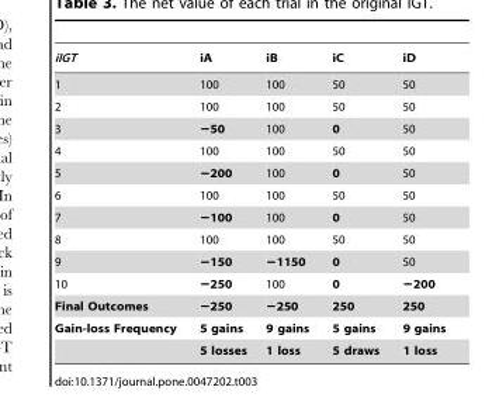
<table><thead><tr><td>iIGT</td><td>iA</td><td>iB</td><td>iC</td><td>iD</td></tr></thead><tbody><tr><td>1</td><td>100</td><td>100</td><td>50</td><td>50</td></tr><tr><td>2</td><td>100</td><td>100</td><td>50</td><td>50</td></tr><tr><td>3</td><td>−50</td><td>100</td><td>0</td><td>50</td></tr><tr><td>4</td><td>100</td><td>100</td><td>50</td><td>50</td></tr><tr><td>5</td><td>−200</td><td>100</td><td>0</td><td>50</td></tr><tr><td>6</td><td>100</td><td>100</td><td>50</td><td>50</td></tr><tr><td>7</td><td>−100</td><td>100</td><td>0</td><td>50</td></tr><tr><td>8</td><td>100</td><td>100</td><td>50</td><td>50</td></tr><tr><td>9</td><td>−150</td><td>−1150</td><td>0</td><td>50</td></tr><tr><td>10</td><td>−250</td><td>100</td><td>0</td><td>−200</td></tr><tr><td>Final Outcomes</td><td>−250</td><td>−250</td><td>250</td><td>250</td></tr><tr><td rowspan="2">Gain-loss Frequency</td><td>5 gains</td><td>9 gains</td><td>5 gains</td><td>9 gains</td></tr><tr><td>5 losses</td><td>1 loss</td><td>5 draws</td><td>1 loss</td></tr></tbody></table>